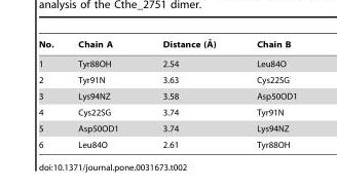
<table><thead><tr><td>No.</td><td>Chain A</td><td>Distance (A˚ )</td><td>Chain B</td></tr></thead><tbody><tr><td>1</td><td>Tyr88OH</td><td>2.54</td><td>Leu84O</td></tr><tr><td>2</td><td>Tyr91N</td><td>3.63</td><td>Cys22SG</td></tr><tr><td>3</td><td>Lys94NZ</td><td>3.58</td><td>Asp50OD1</td></tr><tr><td>4</td><td>Cys22SG</td><td>3.74</td><td>Tyr91N</td></tr><tr><td>5</td><td>Asp50OD1</td><td>3.74</td><td>Lys94NZ</td></tr><tr><td>6</td><td>Leu84O</td><td>2.61</td><td>Tyr88OH</td></tr></tbody></table>